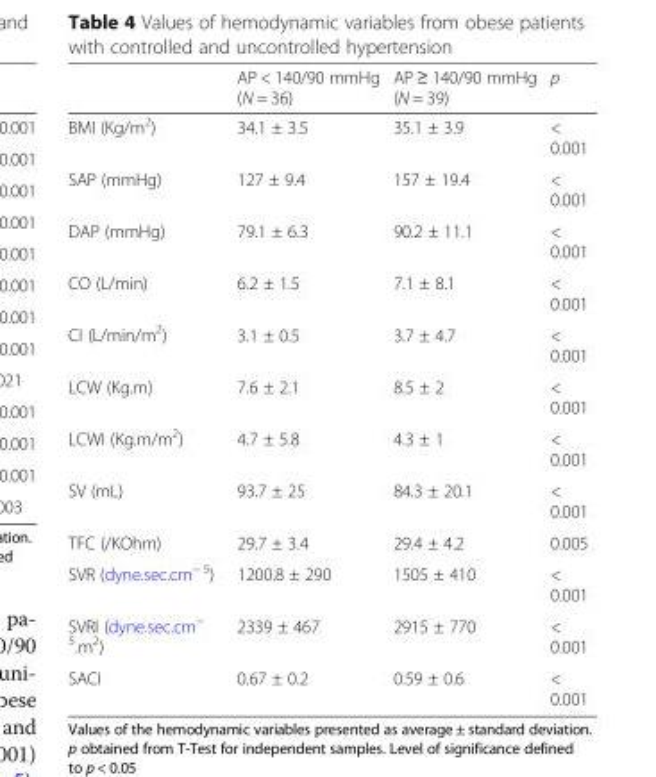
<table><thead><tr><td></td><td>AP &lt; 140/90 mmHg (N = 36)</td><td>AP ≥ 140/90 mmHg (N = 39)</td><td>p</td></tr></thead><tbody><tr><td>BMI (Kg/m<sup>2</sup>)</td><td>34.1 ± 3.5</td><td>35.1 ± 3.9</td><td>&lt; 0.001</td></tr><tr><td>SAP (mmHg)</td><td>127 ± 9.4</td><td>157 ± 19.4</td><td>&lt; 0.001</td></tr><tr><td>DAP (mmHg)</td><td>79.1 ± 6.3</td><td>90.2 ± 11.1</td><td>&lt; 0.001</td></tr><tr><td>CO (L/min)</td><td>6.2 ± 1.5</td><td>7.1 ± 8.1</td><td>&lt; 0.001</td></tr><tr><td>CI (L/min/m<sup>2</sup>)</td><td>3.1 ± 0.5</td><td>3.7 ± 4.7</td><td>&lt; 0.001</td></tr><tr><td>LCW (Kg.m)</td><td>7.6 ± 2.1</td><td>8.5 ± 2</td><td>&lt; 0.001</td></tr><tr><td>LCWI (Kg.m/m<sup>2</sup>)</td><td>4.7 ± 5.8</td><td>4.3 ± 1</td><td>&lt; 0.001</td></tr><tr><td>SV (mL)</td><td>93.7 ± 25</td><td>84.3 ± 20.1</td><td>&lt; 0.001</td></tr><tr><td>TFC (/KOhm)</td><td>29.7 ± 3.4</td><td>29.4 ± 4.2</td><td>0.005</td></tr><tr><td>SVR (dyne.sec.cm<sup>− 5</sup>)</td><td>1200.8 ± 290</td><td>1505 ± 410</td><td>&lt; 0.001</td></tr><tr><td>SVRI (dyne.sec.cm<sup>− 5</sup>.m<sup>2</sup>)</td><td>2339 ± 467</td><td>2915 ± 770</td><td>&lt; 0.001</td></tr><tr><td>SACI</td><td>0.67 ± 0.2</td><td>0.59 ± 0.6</td><td>&lt; 0.001</td></tr></tbody></table>